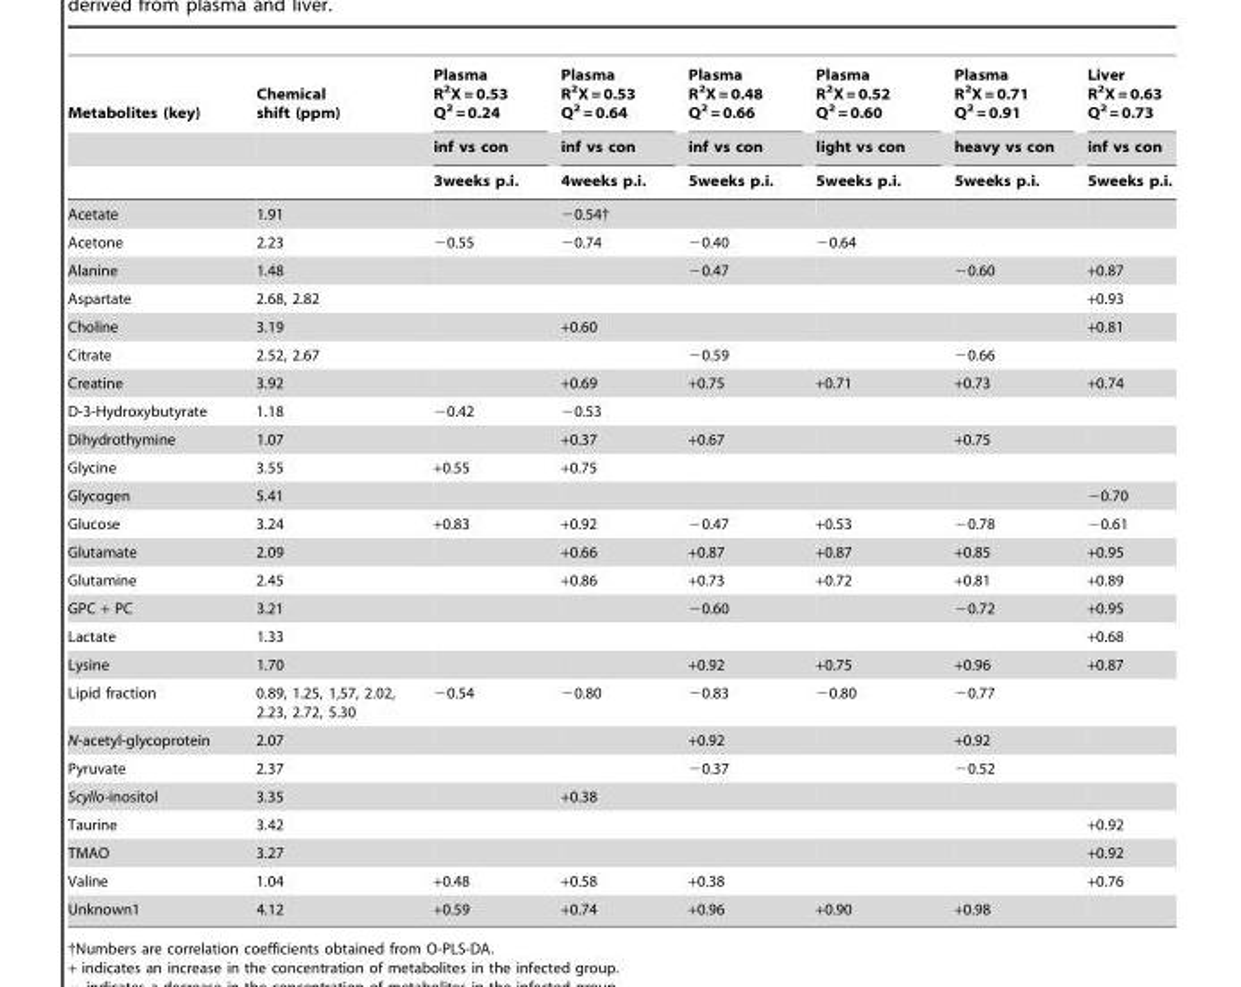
<table><thead><tr><td rowspan="3">Metabolites (key)</td><td rowspan="3">Chemical shift (ppm)</td><td rowspan="3">Plasma R<sup>2</sup>X = 0.53 Q<sup>2</sup> = 0.24 inf vs con 3weeks p.i.</td><td rowspan="3">Plasma R<sup>2</sup>X = 0.53 Q<sup>2</sup> = 0.64 inf vs con 4weeks p.i.</td><td rowspan="3">Plasma R<sup>2</sup>X = 0.48 Q<sup>2</sup> = 0.66 inf vs con 5weeks p.i.</td><td rowspan="3">Plasma R<sup>2</sup>X = 0.52 Q<sup>2</sup> = 0.60 light vs con 5weeks p.i.</td><td rowspan="3">Plasma R<sup>2</sup>X = 0.71 Q<sup>2</sup> = 0.91 heavy vs con 5weeks p.i.</td><td rowspan="3">Liver R<sup>2</sup>X = 0.63 Q<sup>2</sup> = 0.73 inf vs con 5weeks p.i.</td></tr><tr></tr><tr></tr></thead><tbody><tr><td>Acetate</td><td>1.91</td><td></td><td>−0.54†</td><td></td><td></td><td></td><td></td></tr><tr><td>Acetone</td><td>2.23</td><td>−0.55</td><td>−0.74</td><td>−0.40</td><td>−0.64</td><td></td><td></td></tr><tr><td>Alanine</td><td>1.48</td><td></td><td></td><td>−0.47</td><td></td><td>−0.60</td><td>+0.87</td></tr><tr><td>Aspartate</td><td>2.68, 2.82</td><td></td><td></td><td></td><td></td><td></td><td>+0.93</td></tr><tr><td>Choline</td><td>3.19</td><td></td><td>+0.60</td><td></td><td></td><td></td><td>+0.81</td></tr><tr><td>Citrate</td><td>2.52, 2.67</td><td></td><td></td><td>−0.59</td><td></td><td>−0.66</td><td></td></tr><tr><td>Creatine</td><td>3.92</td><td></td><td>+0.69</td><td>+0.75</td><td>+0.71</td><td>+0.73</td><td>+0.74</td></tr><tr><td>D-3-Hydroxybutyrate</td><td>1.18</td><td>−0.42</td><td>−0.53</td><td></td><td></td><td></td><td></td></tr><tr><td>Dihydrothymine</td><td>1.07</td><td></td><td>+0.37</td><td>+0.67</td><td></td><td>+0.75</td><td></td></tr><tr><td>Glycine</td><td>3.55</td><td>+0.55</td><td>+0.75</td><td></td><td></td><td></td><td></td></tr><tr><td>Glycogen</td><td>5.41</td><td></td><td></td><td></td><td></td><td></td><td>−0.70</td></tr><tr><td>Glucose</td><td>3.24</td><td>+0.83</td><td>+0.92</td><td>−0.47</td><td>+0.53</td><td>−0.78</td><td>−0.61</td></tr><tr><td>Glutamate</td><td>2.09</td><td></td><td>+0.66</td><td>+0.87</td><td>+0.87</td><td>+0.85</td><td>+0.95</td></tr><tr><td>Glutamine</td><td>2.45</td><td></td><td>+0.86</td><td>+0.73</td><td>+0.72</td><td>+0.81</td><td>+0.89</td></tr><tr><td>GPC + PC</td><td>3.21</td><td></td><td></td><td>−0.60</td><td></td><td>−0.72</td><td>+0.95</td></tr><tr><td>Lactate</td><td>1.33</td><td></td><td></td><td></td><td></td><td></td><td>+0.68</td></tr><tr><td>Lysine</td><td>1.70</td><td></td><td></td><td>+0.92</td><td>+0.75</td><td>+0.96</td><td>+0.87</td></tr><tr><td>Lipid fraction</td><td>0.89, 1.25, 1,57, 2.02, 2.23, 2.72, 5.30</td><td>−0.54</td><td>−0.80</td><td>−0.83</td><td>−0.80</td><td>−0.77</td><td></td></tr><tr><td>N-acetyl-glycoprotein</td><td>2.07</td><td></td><td></td><td>+0.92</td><td></td><td>+0.92</td><td></td></tr><tr><td>Pyruvate</td><td>2.37</td><td></td><td></td><td>−0.37</td><td></td><td>−0.52</td><td></td></tr><tr><td>Scyllo-inositol</td><td>3.35</td><td></td><td>+0.38</td><td></td><td></td><td></td><td></td></tr><tr><td>Taurine</td><td>3.42</td><td></td><td></td><td></td><td></td><td></td><td>+0.92</td></tr><tr><td>TMAO</td><td>3.27</td><td></td><td></td><td></td><td></td><td></td><td>+0.92</td></tr><tr><td>Valine</td><td>1.04</td><td>+0.48</td><td>+0.58</td><td>+0.38</td><td></td><td></td><td>+0.76</td></tr><tr><td>Unknown1</td><td>4.12</td><td>+0.59</td><td>+0.74</td><td>+0.96</td><td>+0.90</td><td>+0.98</td><td></td></tr></tbody></table>